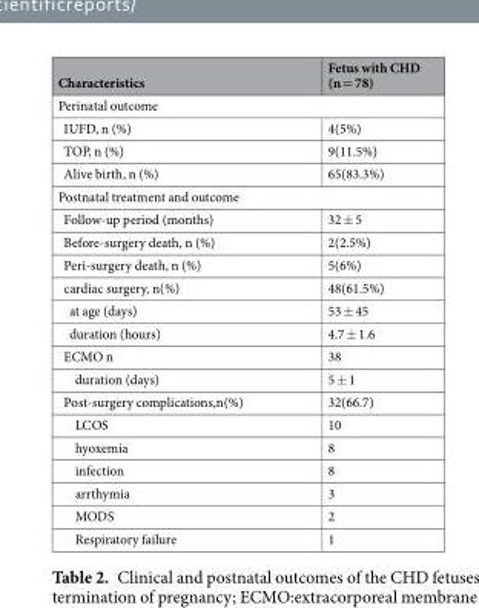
<table><thead><tr><td>Characteristics</td><td>Fetus with CHD (n = 78)</td></tr></thead><tbody><tr><td colspan="2">Perinatal outcome</td></tr><tr><td>IUFD, n (%)</td><td>4(5%)</td></tr><tr><td>TOP, n (%)</td><td>9(11.5%)</td></tr><tr><td>Alive birth, n (%)</td><td>65(83.3%)</td></tr><tr><td colspan="2">Postnatal treatment and outcome</td></tr><tr><td>Follow-up period (months)</td><td>32 ± 5</td></tr><tr><td>Before-surgery death, n (%)</td><td>2(2.5%)</td></tr><tr><td>Peri-surgery death, n (%)</td><td>5(6%)</td></tr><tr><td>cardiac surgery, n(%)</td><td>48(61.5%)</td></tr><tr><td>at age (days)</td><td>53 ± 45</td></tr><tr><td>duration (hours)</td><td>4.7 ± 1.6</td></tr><tr><td>ECMO n</td><td>38</td></tr><tr><td>duration (days)</td><td>5 ± 1</td></tr><tr><td>Post-surgery complications,n(%)</td><td>32(66.7)</td></tr><tr><td>LCOS</td><td>10</td></tr><tr><td>hyoxemia</td><td>8</td></tr><tr><td>infection</td><td>8</td></tr><tr><td>arrthymia</td><td>3</td></tr><tr><td>MODS</td><td>2</td></tr><tr><td>Respiratory failure</td><td>1</td></tr></tbody></table>